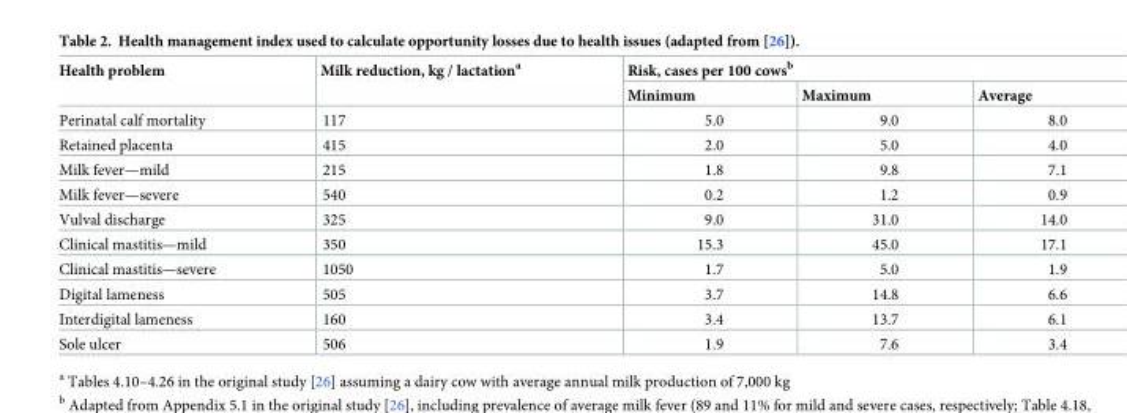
<table><thead><tr><td rowspan="2">Health problem</td><td rowspan="2">Milk reduction, kg / lactation<sup>a</sup></td><td colspan="3">Risk, cases per 100 cows<sup>b</sup></td></tr><tr><td>Minimum</td><td>Maximum</td><td>Average</td></tr></thead><tbody><tr><td>Perinatal calf mortality</td><td>117</td><td>5.0</td><td>9.0</td><td>8.0</td></tr><tr><td>Retained placenta</td><td>415</td><td>2.0</td><td>5.0</td><td>4.0</td></tr><tr><td>Milk fever—mild</td><td>215</td><td>1.8</td><td>9.8</td><td>7.1</td></tr><tr><td>Milk fever—severe</td><td>540</td><td>0.2</td><td>1.2</td><td>0.9</td></tr><tr><td>Vulval discharge</td><td>325</td><td>9.0</td><td>31.0</td><td>14.0</td></tr><tr><td>Clinical mastitis—mild</td><td>350</td><td>15.3</td><td>45.0</td><td>17.1</td></tr><tr><td>Clinical mastitis—severe</td><td>1050</td><td>1.7</td><td>5.0</td><td>1.9</td></tr><tr><td>Digital lameness</td><td>505</td><td>3.7</td><td>14.8</td><td>6.6</td></tr><tr><td>Interdigital lameness</td><td>160</td><td>3.4</td><td>13.7</td><td>6.1</td></tr><tr><td>Sole ulcer</td><td>506</td><td>1.9</td><td>7.6</td><td>3.4</td></tr></tbody></table>